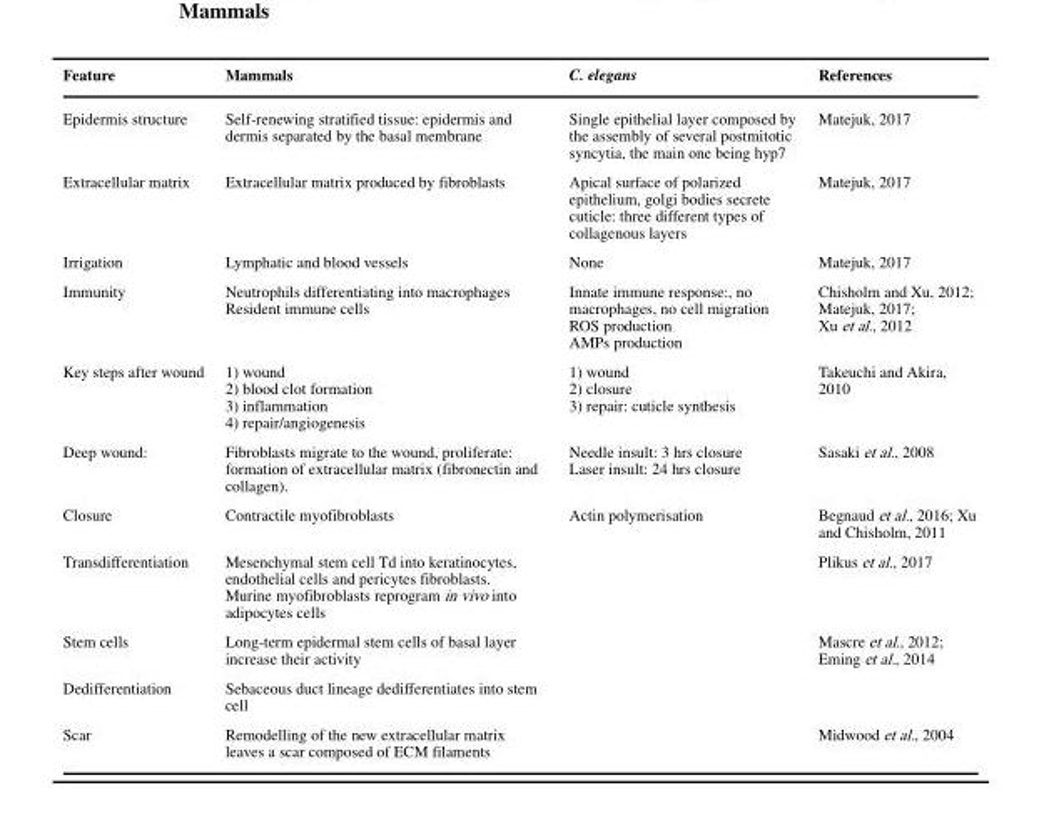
<table><thead><tr><td>Feature</td><td>Mammals</td><td>C. elegans</td><td>References</td></tr></thead><tbody><tr><td>Epidermis structure</td><td>Self-renewing stratified tissue: epidermis and dermis separated by the basal membrane</td><td>Single epithelial layer composed by the assembly of several postmitotic syncytia, the main one being hyp7</td><td>Matejuk, 2017</td></tr><tr><td>Extracellular matrix</td><td>Extracellular matrix produced by fibroblasts</td><td>Apical surface of polarized epithelium, golgi bodies secrete cuticle: three different types of collagenous layers</td><td>Matejuk, 2017</td></tr><tr><td>Irrigation</td><td>Lymphatic and blood vessels</td><td>None</td><td>Matejuk, 2017</td></tr><tr><td>Immunity</td><td>Neutrophils differentiating into macrophages Resident immune cells</td><td>Innate immune response:, no macrophages, no cell migration ROS production AMPs production</td><td>Chisholm and Xu, 2012; Matejuk, 2017; Xu et al., 2012</td></tr><tr><td>Key steps after wound</td><td>1) wound 2) blood clot formation 3) inflammation 4) repair/angiogenesis</td><td>1) wound 2) closure 3) repair: cuticle synthesis</td><td>Takeuchi and Akira, 2010</td></tr><tr><td>Deep wound:</td><td>Fibroblasts migrate to the wound, proliferate: formation of extracellular matrix (fibronectin and collagen).</td><td>Needle insult: 3 hrs closure Laser insult: 24 hrs closure</td><td>Sasaki et al., 2008</td></tr><tr><td>Closure</td><td>Contractile myofibroblasts</td><td>Actin polymerisation</td><td>Begnaud et al., 2016; Xu and Chisholm, 2011</td></tr><tr><td>Transdifferentiation</td><td>Mesenchymal stem cell Td into keratinocytes, endothelial cells and pericytes fibroblasts. Murine myofibroblasts reprogram in vivo into adipocytes cells</td><td></td><td>Plikus et al., 2017</td></tr><tr><td>Stem cells</td><td>Long-term epidermal stem cells of basal layer increase their activity</td><td></td><td>Mascre et al., 2012; Eming et al., 2014</td></tr><tr><td>Dedifferentiation</td><td>Sebaceous duct lineage dedifferentiates into stem cell</td><td></td><td></td></tr><tr><td>Scar</td><td>Remodelling of the new extracellular matrix leaves a scar composed of ECM filaments</td><td></td><td>Midwood et al., 2004</td></tr></tbody></table>